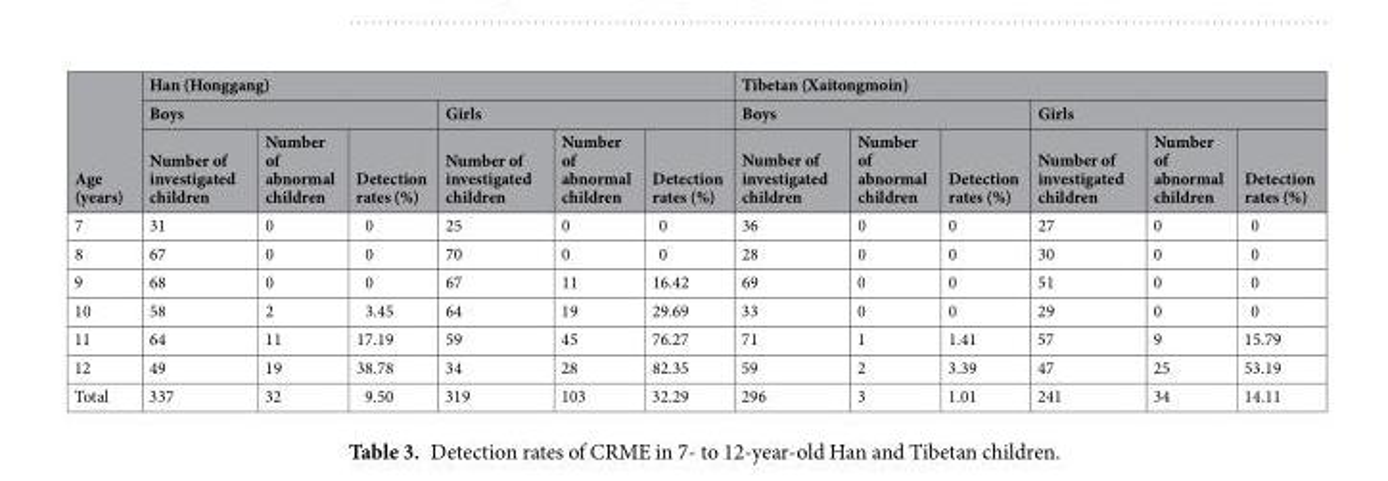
<table><thead><tr><td rowspan="3">Age (years)</td><td colspan="6">Han (Honggang)</td><td colspan="6">Tibetan (Xaitongmoin)</td></tr><tr><td colspan="3">Boys</td><td colspan="3">Girls</td><td colspan="3">Boys</td><td colspan="3">Girls</td></tr><tr><td>Number of investigated children</td><td>Number of abnormal children</td><td>Detection rates (%)</td><td>Number of investigated children</td><td>Number of abnormal children</td><td>Detection rates (%)</td><td>Number of investigated children</td><td>Number of abnormal children</td><td>Detection rates (%)</td><td>Number of investigated children</td><td>Number of abnormal children</td><td>Detection rates (%)</td></tr></thead><tbody><tr><td>7</td><td>31</td><td>0</td><td>0</td><td>25</td><td>0</td><td>0</td><td>36</td><td>0</td><td>0</td><td>27</td><td>0</td><td>0</td></tr><tr><td>8</td><td>67</td><td>0</td><td>0</td><td>70</td><td>0</td><td>0</td><td>28</td><td>0</td><td>0</td><td>30</td><td>0</td><td>0</td></tr><tr><td>9</td><td>68</td><td>0</td><td>0</td><td>67</td><td>11</td><td>16.42</td><td>69</td><td>0</td><td>0</td><td>51</td><td>0</td><td>0</td></tr><tr><td>10</td><td>58</td><td>2</td><td>3.45</td><td>64</td><td>19</td><td>29.69</td><td>33</td><td>0</td><td>0</td><td>29</td><td>0</td><td>0</td></tr><tr><td>11</td><td>64</td><td>11</td><td>17.19</td><td>59</td><td>45</td><td>76.27</td><td>71</td><td>1</td><td>1.41</td><td>57</td><td>9</td><td>15.79</td></tr><tr><td>12</td><td>49</td><td>19</td><td>38.78</td><td>34</td><td>28</td><td>82.35</td><td>59</td><td>2</td><td>3.39</td><td>47</td><td>25</td><td>53.19</td></tr><tr><td>Total</td><td>337</td><td>32</td><td>9.50</td><td>319</td><td>103</td><td>32.29</td><td>296</td><td>3</td><td>1.01</td><td>241</td><td>34</td><td>14.11</td></tr></tbody></table>